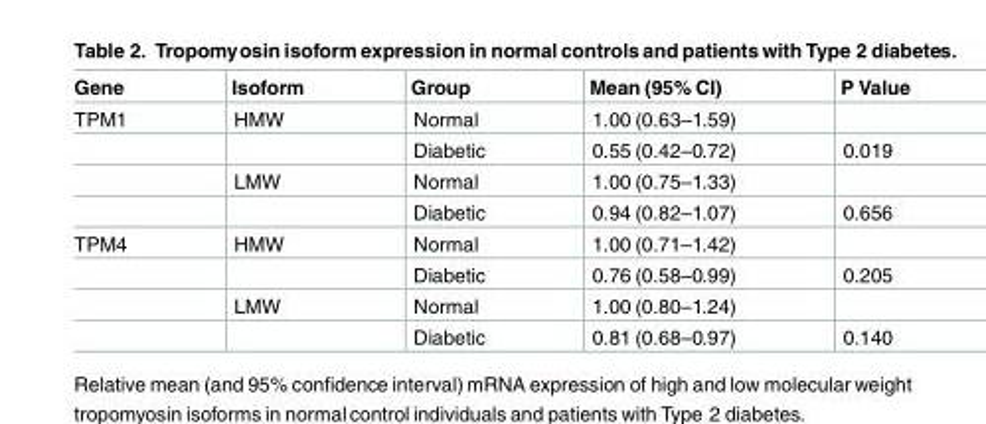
<table><thead><tr><td>Gene</td><td>Isoform</td><td>Group</td><td>Mean (95% CI)</td><td>P Value</td></tr></thead><tbody><tr><td rowspan="4">TPM1</td><td>HMW</td><td>Normal</td><td>1.00 (0.63–1.59)</td><td></td></tr><tr><td></td><td>Diabetic</td><td>0.55 (0.42–0.72)</td><td>0.019</td></tr><tr><td>LMW</td><td>Normal</td><td>1.00 (0.75–1.33)</td><td></td></tr><tr><td></td><td>Diabetic</td><td>0.94 (0.82–1.07)</td><td>0.656</td></tr><tr><td rowspan="4">TPM4</td><td>HMW</td><td>Normal</td><td>1.00 (0.71–1.42)</td><td></td></tr><tr><td></td><td>Diabetic</td><td>0.76 (0.58–0.99)</td><td>0.205</td></tr><tr><td>LMW</td><td>Normal</td><td>1.00 (0.80–1.24)</td><td></td></tr><tr><td></td><td>Diabetic</td><td>0.81 (0.68–0.97)</td><td>0.140</td></tr></tbody></table>